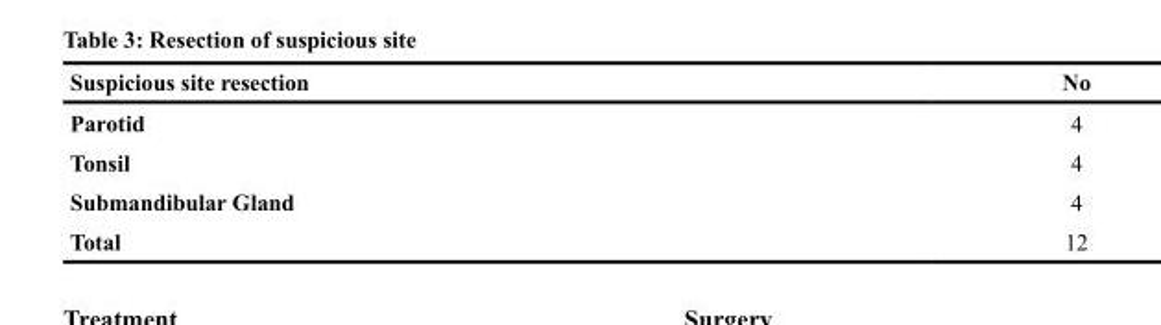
<table><thead><tr><td>Suspicious site resection</td><td>No</td></tr></thead><tbody><tr><td>Parotid</td><td>4</td></tr><tr><td>Tonsil</td><td>4</td></tr><tr><td>Submandibular Gland</td><td>4</td></tr><tr><td>Total</td><td>12</td></tr></tbody></table>